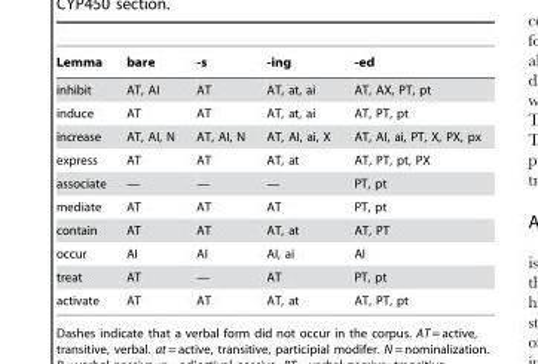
<table><thead><tr><td>Lemma</td><td>bare</td><td>-s</td><td>-ing</td><td>-ed</td></tr></thead><tbody><tr><td>inhibit</td><td>AT, AI</td><td>AT</td><td>AT, at, ai</td><td>AT, AX, PT, pt</td></tr><tr><td>induce</td><td>AT</td><td>AT</td><td>AT, at, ai</td><td>AT, PT, pt</td></tr><tr><td>increase</td><td>AT, AI, N</td><td>AT, AI, N</td><td>AT, AI, ai, X</td><td>AT, AI, ai, PT, X, PX, px</td></tr><tr><td>express</td><td>AT</td><td>AT</td><td>AT, at</td><td>AT, PT, pt, PX</td></tr><tr><td>associate</td><td>—</td><td>—</td><td>—</td><td>PT, pt</td></tr><tr><td>mediate</td><td>AT</td><td>AT</td><td>AT</td><td>PT, pt</td></tr><tr><td>contain</td><td>AT</td><td>AT</td><td>AT, at</td><td>AT, PT</td></tr><tr><td>occur</td><td>AI</td><td>AI</td><td>AI, ai</td><td>AI</td></tr><tr><td>treat</td><td>AT</td><td>—</td><td>AT</td><td>PT, pt</td></tr><tr><td>activate</td><td>AT</td><td>AT</td><td>AT, at</td><td>AT, PT, pt</td></tr></tbody></table>